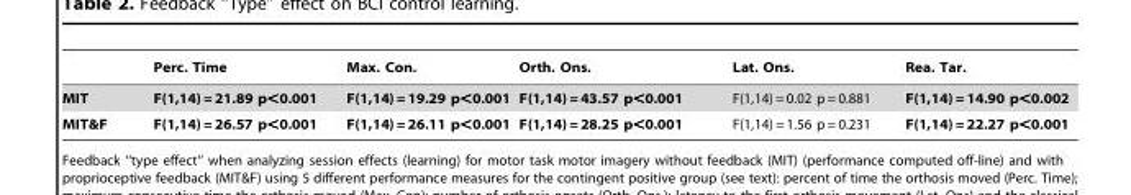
<table><thead><tr><td></td><td>Perc. Time</td><td>Max. Con.</td><td>Orth. Ons.</td><td>Lat. Ons.</td><td>Rea. Tar.</td></tr></thead><tbody><tr><td>MIT</td><td>F(1,14) = 21.89 p&lt;0.001</td><td>F(1,14) = 19.29 p&lt;0.001</td><td>F(1,14) = 43.57 p&lt;0.001</td><td>F(1,14) = 0.02 p = 0.881</td><td>F(1,14) = 14.90 p&lt;0.002</td></tr><tr><td>MIT&amp;F</td><td>F(1,14) = 26.57 p&lt;0.001</td><td>F(1,14) = 26.11 p&lt;0.001</td><td>F(1,14) = 28.25 p&lt;0.001</td><td>F(1,14) = 1.56 p = 0.231</td><td>F(1,14) = 22.27 p&lt;0.001</td></tr></tbody></table>